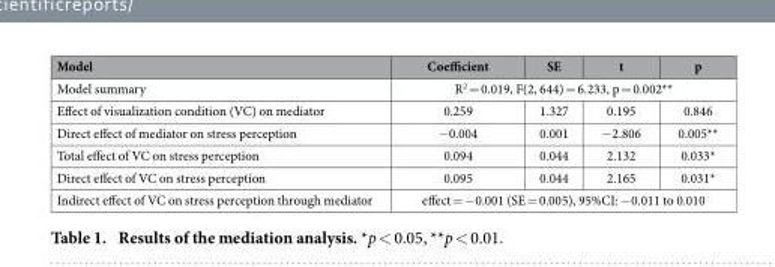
<table><thead><tr><td>Model</td><td>Coefficient</td><td>SE</td><td>t</td><td>p</td></tr></thead><tbody><tr><td>Model summary</td><td colspan="4">R<sup>2</sup> = 0.019, F(2, 644) = 6.233, p = 0.002**</td></tr><tr><td>Effect of visualization condition (VC) on mediator</td><td>0.259</td><td>1.327</td><td>0.195</td><td>0.846</td></tr><tr><td>Direct effect of mediator on stress perception</td><td>− 0.004</td><td>0.001</td><td>− 2.806</td><td>0.005**</td></tr><tr><td>Total effect of VC on stress perception</td><td>0.094</td><td>0.044</td><td>2.132</td><td>0.033*</td></tr><tr><td>Direct effect of VC on stress perception</td><td>0.095</td><td>0.044</td><td>2.165</td><td>0.031*</td></tr><tr><td>Indirect effect of VC on stress perception through mediator</td><td colspan="4">effect = − 0.001 (SE = 0.005), 95%CI: − 0.011 to 0.010</td></tr></tbody></table>